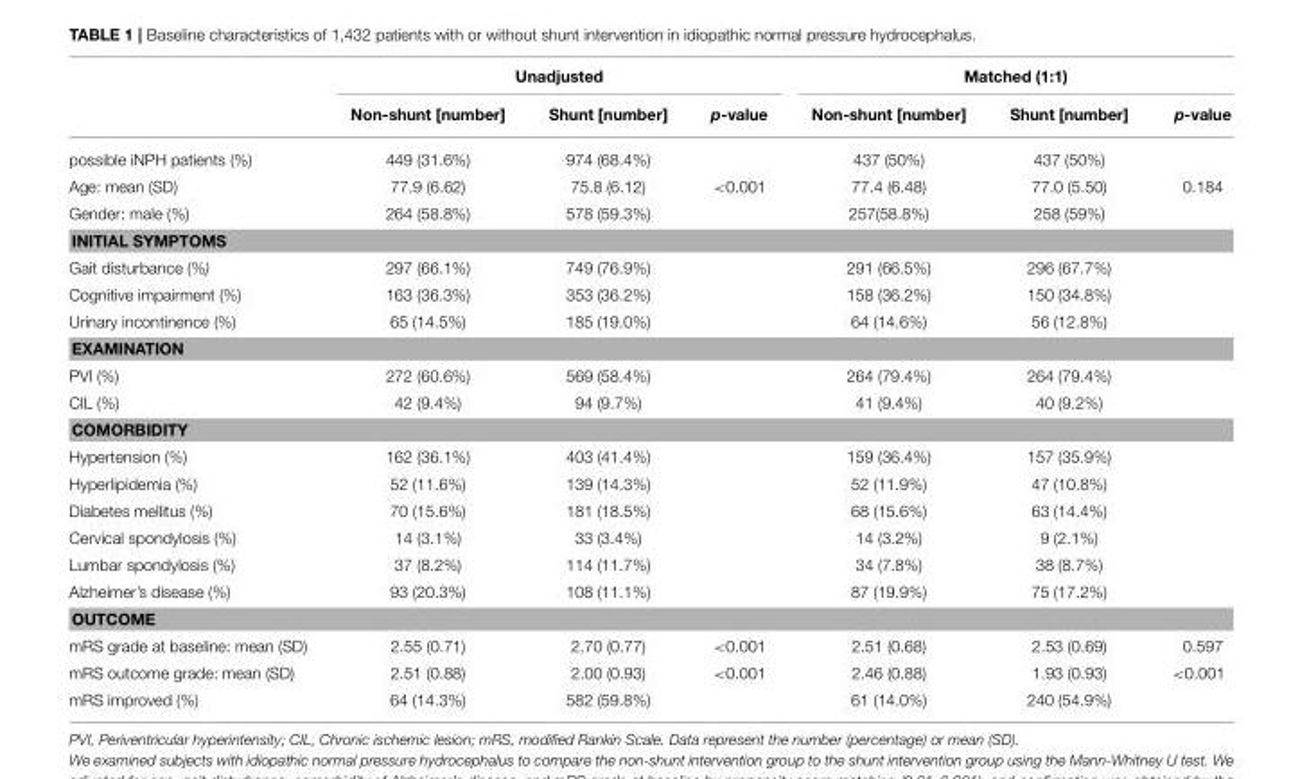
<table><thead><tr><td rowspan="2"></td><td colspan="3">Unadjusted</td><td colspan="3">Matched (1:1)</td></tr><tr><td>Non-shunt [number]</td><td>Shunt [number]</td><td>p-value</td><td>Non-shunt [number]</td><td>Shunt [number]</td><td>p-value</td></tr></thead><tbody><tr><td>possible iNPH patients (%)</td><td>449 (31.6%)</td><td>974 (68.4%)</td><td></td><td>437 (50%)</td><td>437 (50%)</td><td></td></tr><tr><td>Age: mean (SD)</td><td>77.9 (6.62)</td><td>75.8 (6.12)</td><td>&lt;0.001</td><td>77.4 (6.48)</td><td>77.0 (5.50)</td><td>0.184</td></tr><tr><td>Gender: male (%)</td><td>264 (58.8%)</td><td>578 (59.3%)</td><td></td><td>257(58.8%)</td><td>258 (59%)</td><td></td></tr><tr><td colspan="7">INITIAL SYMPTOMS</td></tr><tr><td>Gait disturbance (%)</td><td>297 (66.1%)</td><td>749 (76.9%)</td><td></td><td>291 (66.5%)</td><td>296 (67.7%)</td><td></td></tr><tr><td>Cognitive impairment (%)</td><td>163 (36.3%)</td><td>353 (36.2%)</td><td></td><td>158 (36.2%)</td><td>150 (34.8%)</td><td></td></tr><tr><td>Urinary incontinence (%)</td><td>65 (14.5%)</td><td>185 (19.0%)</td><td></td><td>64 (14.6%)</td><td>56 (12.8%)</td><td></td></tr><tr><td colspan="7">EXAMINATION</td></tr><tr><td>PVI (%)</td><td>272 (60.6%)</td><td>569 (58.4%)</td><td></td><td>264 (79.4%)</td><td>264 (79.4%)</td><td></td></tr><tr><td>CIL (%)</td><td>42 (9.4%)</td><td>94 (9.7%)</td><td></td><td>41 (9.4%)</td><td>40 (9.2%)</td><td></td></tr><tr><td colspan="7">COMORBIDITY</td></tr><tr><td>Hypertension (%)</td><td>162 (36.1%)</td><td>403 (41.4%)</td><td></td><td>159 (36.4%)</td><td>157 (35.9%)</td><td></td></tr><tr><td>Hyperlipidemia (%)</td><td>52 (11.6%)</td><td>139 (14.3%)</td><td></td><td>52 (11.9%)</td><td>47 (10.8%)</td><td></td></tr><tr><td>Diabetes mellitus (%)</td><td>70 (15.6%)</td><td>181 (18.5%)</td><td></td><td>68 (15.6%)</td><td>63 (14.4%)</td><td></td></tr><tr><td>Cervical spondylosis (%)</td><td>14 (3.1%)</td><td>33 (3.4%)</td><td></td><td>14 (3.2%)</td><td>9 (2.1%)</td><td></td></tr><tr><td>Lumbar spondylosis (%)</td><td>37 (8.2%)</td><td>114 (11.7%)</td><td></td><td>34 (7.8%)</td><td>38 (8.7%)</td><td></td></tr><tr><td>Alzheimer’s disease (%)</td><td>93 (20.3%)</td><td>108 (11.1%)</td><td></td><td>87 (19.9%)</td><td>75 (17.2%)</td><td></td></tr><tr><td colspan="7">OUTCOME</td></tr><tr><td>mRS grade at baseline: mean (SD)</td><td>2.55 (0.71)</td><td>2.70 (0.77)</td><td>&lt;0.001</td><td>2.51 (0.68)</td><td>2.53 (0.69)</td><td>0.597</td></tr><tr><td>mRS outcome grade: mean (SD)</td><td>2.51 (0.88)</td><td>2.00 (0.93)</td><td>&lt;0.001</td><td>2.46 (0.88)</td><td>1.93 (0.93)</td><td>&lt;0.001</td></tr><tr><td>mRS improved (%)</td><td>64 (14.3%)</td><td>582 (59.8%)</td><td></td><td>61 (14.0%)</td><td>240 (54.9%)</td><td></td></tr></tbody></table>